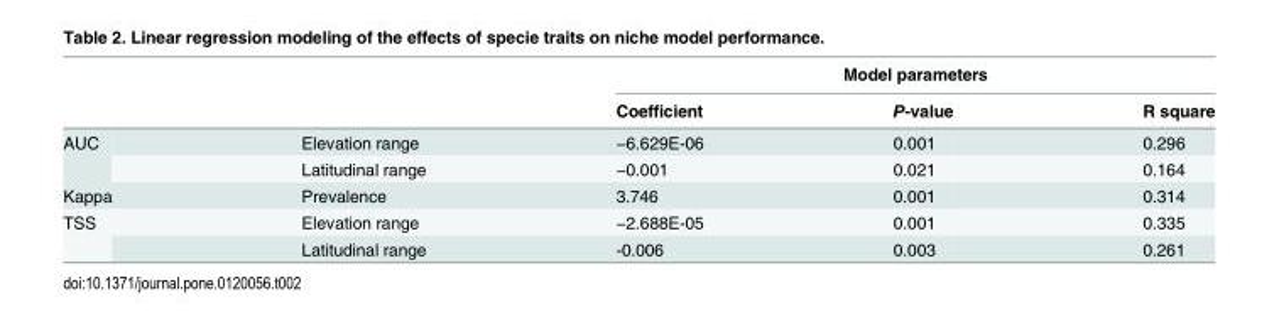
<table><thead><tr><td rowspan="2"></td><td rowspan="2"></td><td colspan="3">Model parameters</td></tr><tr><td>Coefficient</td><td>P-value</td><td>R square</td></tr></thead><tbody><tr><td rowspan="2">AUC</td><td>Elevation range</td><td>−6.629E-06</td><td>0.001</td><td>0.296</td></tr><tr><td>Latitudinal range</td><td>−0.001</td><td>0.021</td><td>0.164</td></tr><tr><td>Kappa</td><td>Prevalence</td><td>3.746</td><td>0.001</td><td>0.314</td></tr><tr><td rowspan="2">TSS</td><td>Elevation range</td><td>−2.688E-05</td><td>0.001</td><td>0.335</td></tr><tr><td>Latitudinal range</td><td>-0.006</td><td>0.003</td><td>0.261</td></tr></tbody></table>